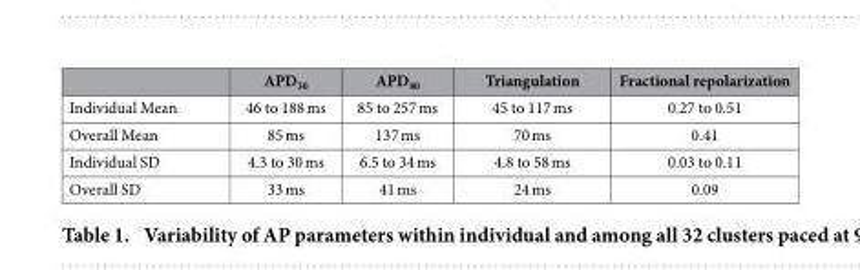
<table><thead><tr><td></td><td>APD<sub>30</sub></td><td>APD<sub>80</sub></td><td>Triangulation</td><td>Fractional repolarization</td></tr></thead><tbody><tr><td>Individual Mean</td><td>46 to 188 ms</td><td>85 to 257 ms</td><td>45 to 117 ms</td><td>0.27 to 0.51</td></tr><tr><td>Overall Mean</td><td>85 ms</td><td>137 ms</td><td>70 ms</td><td>0.41</td></tr><tr><td>Individual SD</td><td>4.3 to 30 ms</td><td>6.5 to 34 ms</td><td>4.8 to 58 ms</td><td>0.03 to 0.11</td></tr><tr><td>Overall SD</td><td>33 ms</td><td>41 ms</td><td>24 ms</td><td>0.09</td></tr></tbody></table>